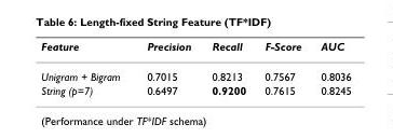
<table><thead><tr><td>Feature</td><td>Precision</td><td>Recall</td><td>F-Score</td><td>AUC</td></tr></thead><tbody><tr><td>Unigram + Bigram</td><td>0.7015</td><td>0.8213</td><td>0.7567</td><td>0.8036</td></tr><tr><td>String (p=7)</td><td>0.6497</td><td>0.9200</td><td>0.7615</td><td>0.8245</td></tr></tbody></table>